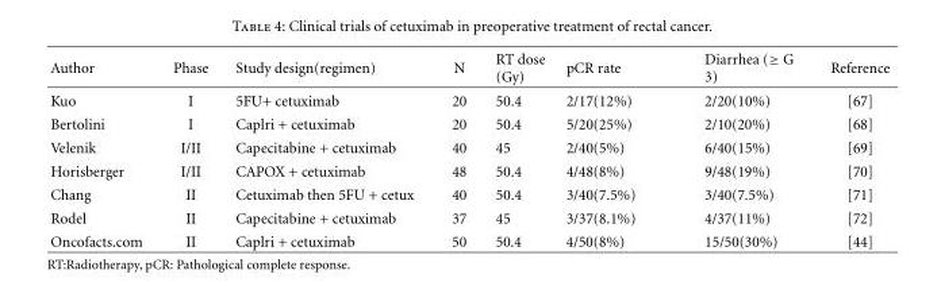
<table><thead><tr><td>Author</td><td>Phase</td><td>Study design(regimen)</td><td>N</td><td>RT dose (Gy)</td><td>pCR rate</td><td>Diarrhea (≥ G 3)</td><td>Reference</td></tr></thead><tbody><tr><td>Kuo</td><td>I</td><td>5FU+ cetuximab</td><td>20</td><td>50.4</td><td>2/17(12%)</td><td>2/20(10%)</td><td>[67]</td></tr><tr><td>Bertolini</td><td>I</td><td>Caplri + cetuximab</td><td>20</td><td>50.4</td><td>5/20(25%)</td><td>2/10(20%)</td><td>[68]</td></tr><tr><td>Velenik</td><td>I/II</td><td>Capecitabine + cetuximab</td><td>40</td><td>45</td><td>2/40(5%)</td><td>6/40(15%)</td><td>[69]</td></tr><tr><td>Horisberger</td><td>I/II</td><td>CAPOX + cetuximab</td><td>48</td><td>50.4</td><td>4/48(8%)</td><td>9/48(19%)</td><td>[70]</td></tr><tr><td>Chang</td><td>II</td><td>Cetuximab then 5FU + cetux</td><td>40</td><td>50.4</td><td>3/40(7.5%)</td><td>3/40(7.5%)</td><td>[71]</td></tr><tr><td>Rodel</td><td>II</td><td>Capecitabine + cetuximab</td><td>37</td><td>45</td><td>3/37(8.1%)</td><td>4/37(11%)</td><td>[72]</td></tr><tr><td>Oncofacts.com</td><td>II</td><td>Caplri + cetuximab</td><td>50</td><td>50.4</td><td>4/50(8%)</td><td>15/50(30%)</td><td>[44]</td></tr></tbody></table>